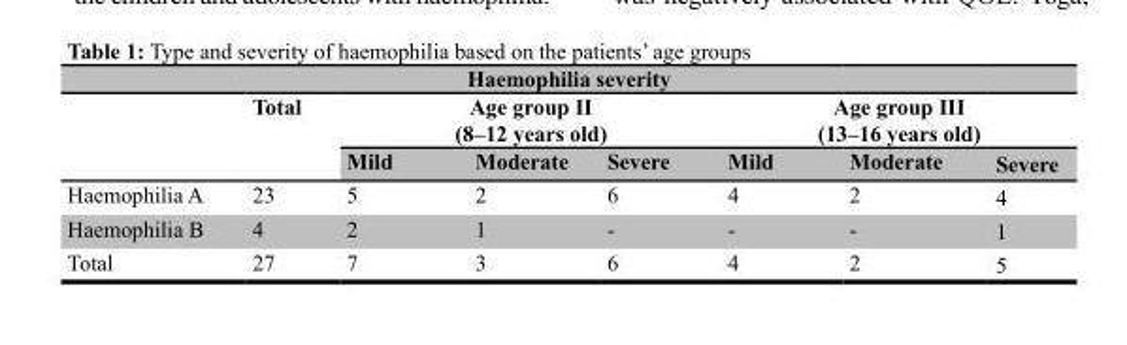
<table><thead><tr><td colspan="8">Haemophilia severity</td></tr><tr><td rowspan="2"></td><td rowspan="2">Total</td><td colspan="3">Age group II (8–12 years old)</td><td colspan="3">Age group III (13–16 years old)</td></tr><tr><td>Mild</td><td>Moderate</td><td>Severe</td><td>Mild</td><td>Moderate</td><td>Severe</td></tr></thead><tbody><tr><td>Haemophilia A</td><td>23</td><td>5</td><td>2</td><td>6</td><td>4</td><td>2</td><td>4</td></tr><tr><td>Haemophilia B</td><td>4</td><td>2</td><td>1</td><td>-</td><td>-</td><td>-</td><td>1</td></tr><tr><td>Total</td><td>27</td><td>7</td><td>3</td><td>6</td><td>4</td><td>2</td><td>5</td></tr></tbody></table>